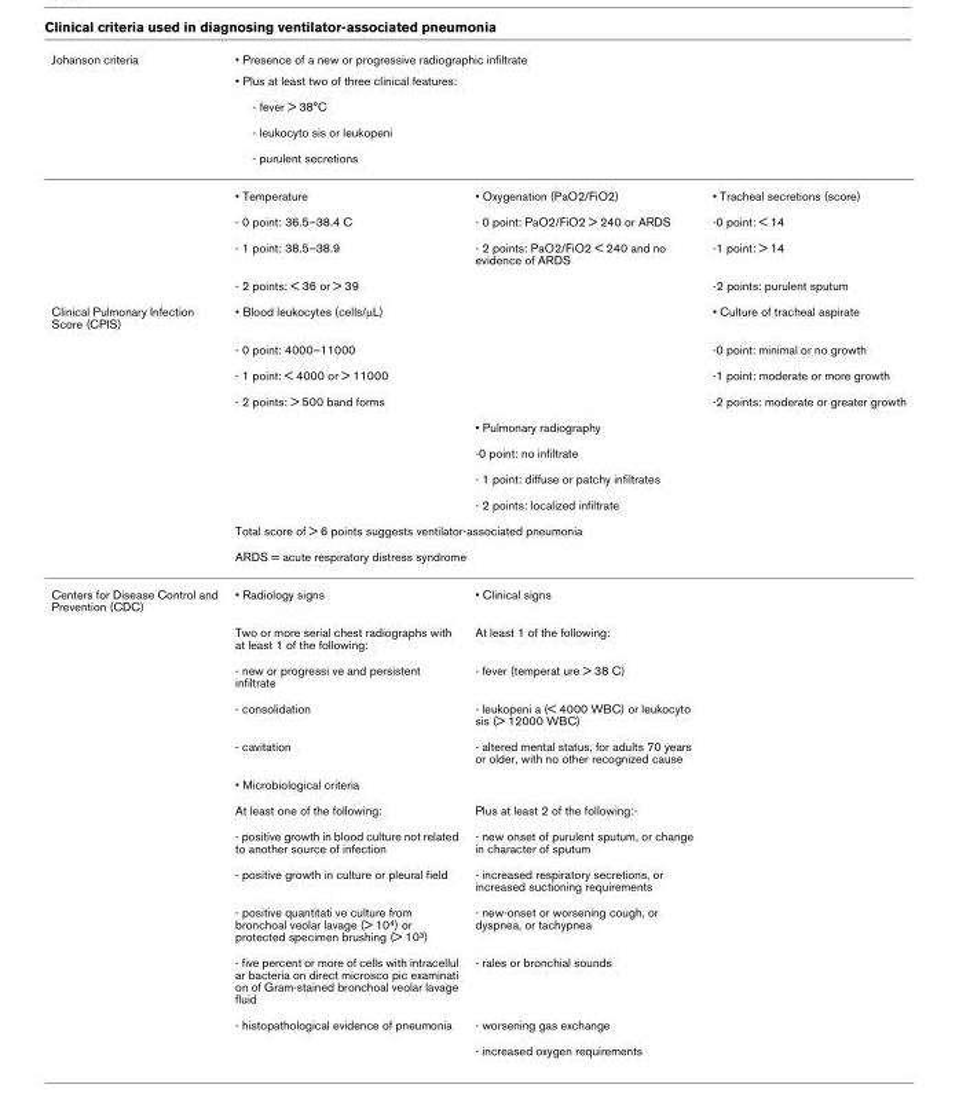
<table><thead><tr><td rowspan="6">Johanson criteria</td><td rowspan="5" colspan="3">• Presence of a new or progressive radiographic infiltrate • Plus at least two of three clinical features: - fever &gt; 38°C - leukocyto sis or leukopeni - purulent secretions</td></tr><tr></tr><tr></tr><tr></tr><tr></tr><tr><td>• Temperature</td><td>• Oxygenation (PaO2/FiO2)</td><td>• Tracheal secretions (score)</td></tr></thead><tbody><tr><td></td><td>- 0 point: 36.5–38.4 C</td><td>- 0 point: PaO2/FiO2 &gt; 240 or ARDS</td><td>-0 point: &lt; 14</td></tr><tr><td></td><td>- 1 point: 38.5–38.9</td><td>- 2 points: PaO2/FiO2 &lt; 240 and no evidence of ARDS</td><td>-1 point: &gt; 14</td></tr><tr><td></td><td>- 2 points: &lt; 36 or &gt; 39</td><td></td><td>-2 points: purulent sputum</td></tr><tr><td rowspan="10">Clinical Pulmonary Infection Score (CPIS)</td><td>• Blood leukocytes (cells/μL)</td><td></td><td>• Culture of tracheal aspirate</td></tr><tr><td>- 0 point: 4000–11000</td><td></td><td>-0 point: minimal or no growth</td></tr><tr><td>- 1 point: &lt; 4000 or &gt; 11000</td><td></td><td>-1 point: moderate or more growth</td></tr><tr><td>- 2 points: &gt; 500 band forms</td><td></td><td>-2 points: moderate or greater growth</td></tr><tr><td></td><td>• Pulmonary radiography</td><td></td></tr><tr><td></td><td>-0 point: no infiltrate</td><td></td></tr><tr><td></td><td>- 1 point: diffuse or patchy infiltrates</td><td></td></tr><tr><td></td><td>- 2 points: localized infiltrate</td><td></td></tr><tr><td colspan="3">Total score of &gt; 6 points suggests ventilator-associated pneumonia</td></tr><tr><td colspan="3">ARDS = acute respiratory distress syndrome</td></tr><tr><td rowspan="13">Centers for Disease Control and Prevention (CDC)</td><td>• Radiology signs</td><td>• Clinical signs</td><td></td></tr><tr><td>Two or more serial chest radiographs with at least 1 of the following:</td><td>At least 1 of the following:</td><td></td></tr><tr><td>- new or progressi ve and persistent infiltrate</td><td>- fever (temperat ure &gt; 38 C)</td><td></td></tr><tr><td>- consolidation</td><td>- leukopeni a (&lt; 4000 WBC) or leukocyto sis (&gt; 12000 WBC)</td><td></td></tr><tr><td>- cavitation</td><td>- altered mental status, for adults 70 years or older, with no other recognized cause</td><td></td></tr><tr><td>• Microbiological criteria</td><td></td><td></td></tr><tr><td>At least one of the following:</td><td>Plus at least 2 of the following:-</td><td></td></tr><tr><td>- positive growth in blood culture not related to another source of infection</td><td>- new onset of purulent sputum, or change in character of sputum</td><td></td></tr><tr><td>- positive growth in culture or pleural field</td><td>- increased respiratory secretions, or increased suctioning requirements</td><td></td></tr><tr><td>- positive quantitati ve culture from bronchoal veolar lavage (&gt; 10<sup>4</sup>) or protected specimen brushing (&gt; 10<sup>3</sup>)</td><td>- new-onset or worsening cough, or dyspnea, or tachypnea</td><td></td></tr><tr><td>- five percent or more of cells with intracellul ar bacteria on direct microsco pic examinati on of Gram-stained bronchoal veolar lavage fluid</td><td>- rales or bronchial sounds</td><td></td></tr><tr><td>- histopathological evidence of pneumonia</td><td>- worsening gas exchange</td><td></td></tr><tr><td></td><td>- increased oxygen requirements</td><td></td></tr></tbody></table>